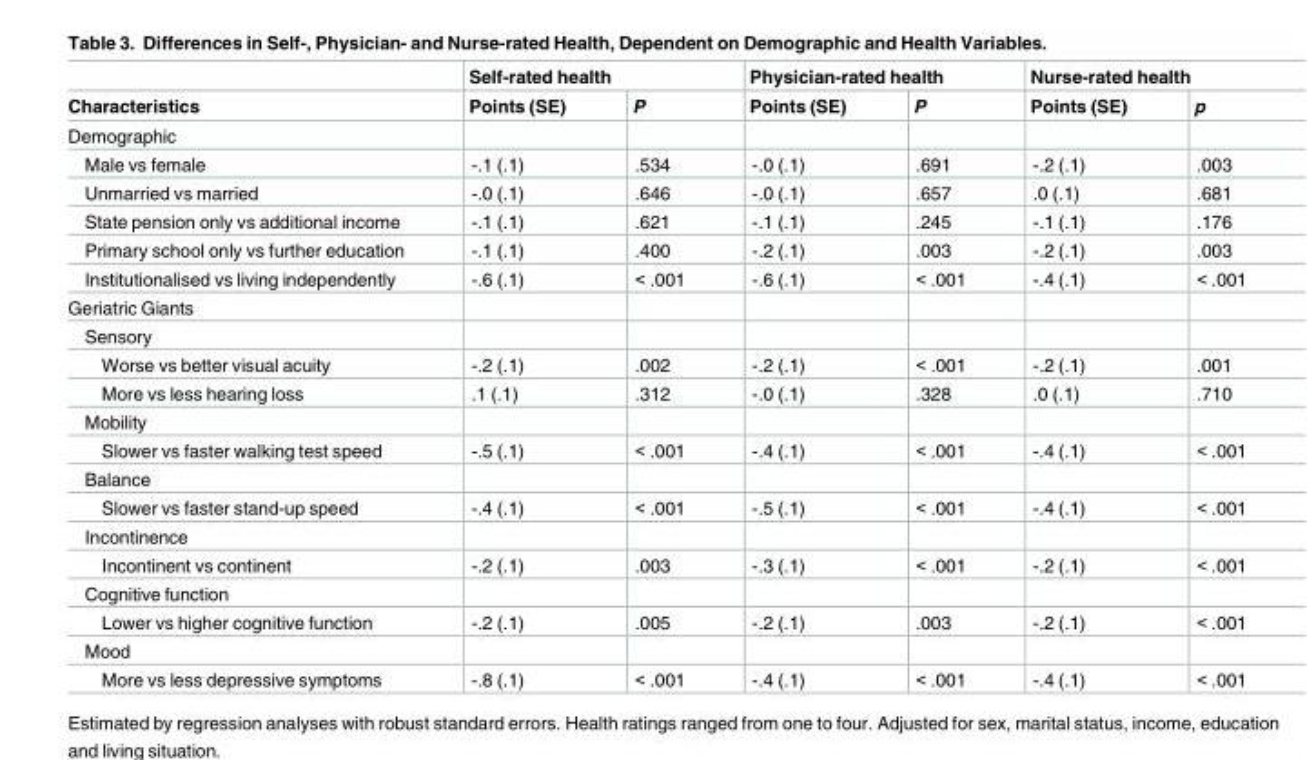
<table><thead><tr><td rowspan="2">Characteristics</td><td colspan="2">Self-rated health</td><td colspan="2">Physician-rated health</td><td colspan="2">Nurse-rated health</td></tr><tr><td>Points (SE)</td><td>P</td><td>Points (SE)</td><td>P</td><td>Points (SE)</td><td>p</td></tr></thead><tbody><tr><td colspan="7">Demographic</td></tr><tr><td>Male vs female</td><td>-.1 (.1)</td><td>.534</td><td>-.0 (.1)</td><td>.691</td><td>-.2 (.1)</td><td>.003</td></tr><tr><td>Unmarried vs married</td><td>-.0 (.1)</td><td>.646</td><td>-.0 (.1)</td><td>.657</td><td>.0 (.1)</td><td>.681</td></tr><tr><td>State pension only vs additional income</td><td>-.1 (.1)</td><td>.621</td><td>-.1 (.1)</td><td>.245</td><td>-.1 (.1)</td><td>.176</td></tr><tr><td>Primary school only vs further education</td><td>-.1 (.1)</td><td>.400</td><td>-.2 (.1)</td><td>.003</td><td>-.2 (.1)</td><td>.003</td></tr><tr><td>Institutionalised vs living independently</td><td>-.6 (.1)</td><td>&lt; .001</td><td>-.6 (.1)</td><td>&lt; .001</td><td>-.4 (.1)</td><td>&lt; .001</td></tr><tr><td colspan="7">Geriatric Giants</td></tr><tr><td colspan="7">Sensory</td></tr><tr><td>Worse vs better visual acuity</td><td>-.2 (.1)</td><td>.002</td><td>-.2 (.1)</td><td>&lt; .001</td><td>-.2 (.1)</td><td>.001</td></tr><tr><td>More vs less hearing loss</td><td>.1 (.1)</td><td>.312</td><td>-.0 (.1)</td><td>.328</td><td>.0 (.1)</td><td>.710</td></tr><tr><td colspan="7">Mobility</td></tr><tr><td>Slower vs faster walking test speed</td><td>-.5 (.1)</td><td>&lt; .001</td><td>-.4 (.1)</td><td>&lt; .001</td><td>-.4 (.1)</td><td>&lt; .001</td></tr><tr><td colspan="7">Balance</td></tr><tr><td>Slower vs faster stand-up speed</td><td>-.4 (.1)</td><td>&lt; .001</td><td>-.5 (.1)</td><td>&lt; .001</td><td>-.4 (.1)</td><td>&lt; .001</td></tr><tr><td colspan="7">Incontinence</td></tr><tr><td>Incontinent vs continent</td><td>-.2 (.1)</td><td>.003</td><td>-.3 (.1)</td><td>&lt; .001</td><td>-.2 (.1)</td><td>&lt; .001</td></tr><tr><td colspan="7">Cognitive function</td></tr><tr><td>Lower vs higher cognitive function</td><td>-.2 (.1)</td><td>.005</td><td>-.2 (.1)</td><td>.003</td><td>-.2 (.1)</td><td>&lt; .001</td></tr><tr><td colspan="7">Mood</td></tr><tr><td>More vs less depressive symptoms</td><td>-.8 (.1)</td><td>&lt; .001</td><td>-.4 (.1)</td><td>&lt; .001</td><td>-.4 (.1)</td><td>&lt; .001</td></tr></tbody></table>